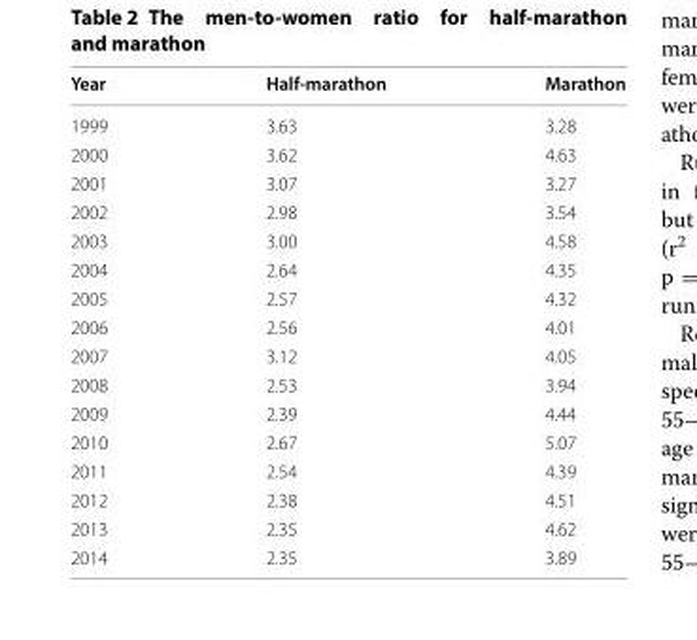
<table><thead><tr><td>Year</td><td>Half-marathon</td><td>Marathon</td></tr></thead><tbody><tr><td>1999</td><td>3.63</td><td>3.28</td></tr><tr><td>2000</td><td>3.62</td><td>4.63</td></tr><tr><td>2001</td><td>3.07</td><td>3.27</td></tr><tr><td>2002</td><td>2.98</td><td>3.54</td></tr><tr><td>2003</td><td>3.00</td><td>4.58</td></tr><tr><td>2004</td><td>2.64</td><td>4.35</td></tr><tr><td>2005</td><td>2.57</td><td>4.32</td></tr><tr><td>2006</td><td>2.56</td><td>4.01</td></tr><tr><td>2007</td><td>3.12</td><td>4.05</td></tr><tr><td>2008</td><td>2.53</td><td>3.94</td></tr><tr><td>2009</td><td>2.39</td><td>4.44</td></tr><tr><td>2010</td><td>2.67</td><td>5.07</td></tr><tr><td>2011</td><td>2.54</td><td>4.39</td></tr><tr><td>2012</td><td>2.38</td><td>4.51</td></tr><tr><td>2013</td><td>2.35</td><td>4.62</td></tr><tr><td>2014</td><td>2.35</td><td>3.89</td></tr></tbody></table>